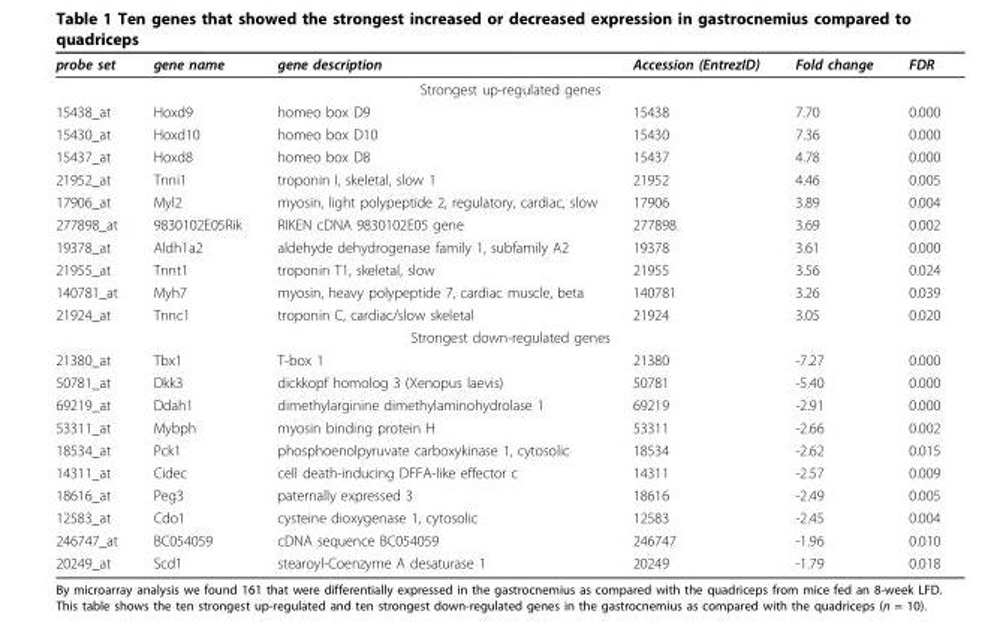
<table><thead><tr><td>probe set</td><td>gene name</td><td>gene description</td><td>Accession (EntrezID)</td><td>Fold change</td><td>FDR</td></tr></thead><tbody><tr><td colspan="6">Strongest up-regulated genes</td></tr><tr><td>15438_at</td><td>Hoxd9</td><td>homeo box D9</td><td>15438</td><td>7.70</td><td>0.000</td></tr><tr><td>15430_at</td><td>Hoxd10</td><td>homeo box D10</td><td>15430</td><td>7.36</td><td>0.000</td></tr><tr><td>15437_at</td><td>Hoxd8</td><td>homeo box D8</td><td>15437</td><td>4.78</td><td>0.000</td></tr><tr><td>21952_at</td><td>Tnni1</td><td>troponin I, skeletal, slow 1</td><td>21952</td><td>4.46</td><td>0.005</td></tr><tr><td>17906_at</td><td>Myl2</td><td>myosin, light polypeptide 2, regulatory, cardiac, slow</td><td>17906</td><td>3.89</td><td>0.004</td></tr><tr><td>277898_at</td><td>9830102E05Rik</td><td>RIKEN cDNA 9830102E05 gene</td><td>277898</td><td>3.69</td><td>0.002</td></tr><tr><td>19378_at</td><td>Aldh1a2</td><td>aldehyde dehydrogenase family 1, subfamily A2</td><td>19378</td><td>3.61</td><td>0.000</td></tr><tr><td>21955_at</td><td>Tnnt1</td><td>troponin T1, skeletal, slow</td><td>21955</td><td>3.56</td><td>0.024</td></tr><tr><td>140781_at</td><td>Myh7</td><td>myosin, heavy polypeptide 7, cardiac muscle, beta</td><td>140781</td><td>3.26</td><td>0.039</td></tr><tr><td>21924_at</td><td>Tnnc1</td><td>troponin C, cardiac/slow skeletal</td><td>21924</td><td>3.05</td><td>0.020</td></tr><tr><td colspan="6">Strongest down-regulated genes</td></tr><tr><td>21380_at</td><td>Tbx1</td><td>T-box 1</td><td>21380</td><td>-7.27</td><td>0.000</td></tr><tr><td>50781_at</td><td>Dkk3</td><td>dickkopf homolog 3 (Xenopus laevis)</td><td>50781</td><td>-5.40</td><td>0.000</td></tr><tr><td>69219_at</td><td>Ddah1</td><td>dimethylarginine dimethylaminohydrolase 1</td><td>69219</td><td>-2.91</td><td>0.000</td></tr><tr><td>53311_at</td><td>Mybph</td><td>myosin binding protein H</td><td>53311</td><td>-2.66</td><td>0.002</td></tr><tr><td>18534_at</td><td>Pck1</td><td>phosphoenolpyruvate carboxykinase 1, cytosolic</td><td>18534</td><td>-2.62</td><td>0.015</td></tr><tr><td>14311_at</td><td>Cidec</td><td>cell death-inducing DFFA-like effector c</td><td>14311</td><td>-2.57</td><td>0.009</td></tr><tr><td>18616_at</td><td>Peg3</td><td>paternally expressed 3</td><td>18616</td><td>-2.49</td><td>0.005</td></tr><tr><td>12583_at</td><td>Cdo1</td><td>cysteine dioxygenase 1, cytosolic</td><td>12583</td><td>-2.45</td><td>0.004</td></tr><tr><td>246747_at</td><td>BC054059</td><td>cDNA sequence BC054059</td><td>246747</td><td>-1.96</td><td>0.010</td></tr><tr><td>20249_at</td><td>Scd1</td><td>stearoyl-Coenzyme A desaturase 1</td><td>20249</td><td>-1.79</td><td>0.018</td></tr></tbody></table>